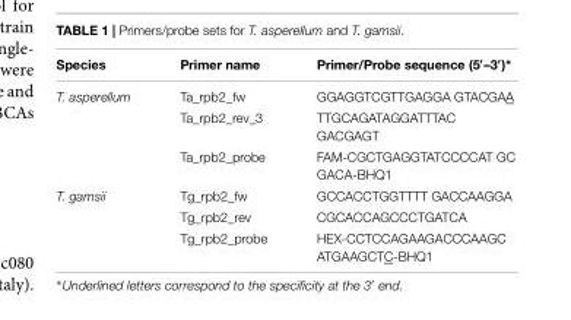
<table><thead><tr><td>Species</td><td>Primer name</td><td>Primer/Probe sequence (5′–3′)∗</td></tr></thead><tbody><tr><td rowspan="3">T. asperellum</td><td>Ta_rpb2_fw</td><td>GGAGGTCGTTGAGGA GTACGAA</td></tr><tr><td>Ta_rpb2_rev_3</td><td>TTGCAGATAGGATTTAC GACGAGT</td></tr><tr><td>Ta_rpb2_probe</td><td>FAM-CGCTGAGGTATCCCCAT GC GACA-BHQ1</td></tr><tr><td rowspan="3">T. gamsii</td><td>Tg_rpb2_fw</td><td>GCCACCTGGTTTT GACCAAGGA</td></tr><tr><td>Tg_rpb2_rev</td><td>CGCACCAGCCCTGATCA</td></tr><tr><td>Tg_rpb2_probe</td><td>HEX-CCTCCAGAAGACCCAAGC ATGAAGCTC-BHQ1</td></tr></tbody></table>